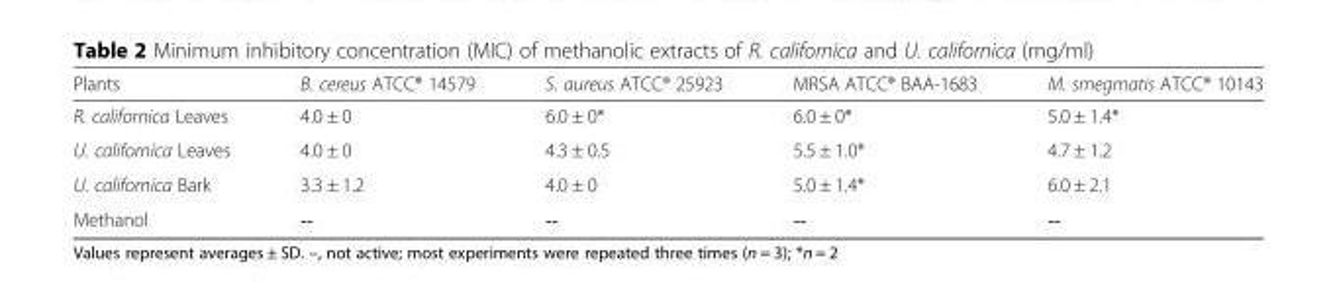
<table><thead><tr><td>Plants</td><td>B. cereus ATCC® 14579</td><td>S. aureus ATCC® 25923</td><td>MRSA ATCC® BAA-1683</td><td>M. smegmatis ATCC® 10143</td></tr></thead><tbody><tr><td>R. californica Leaves</td><td>4.0 ± 0</td><td>6.0 ± 0*</td><td>6.0 ± 0*</td><td>5.0 ± 1.4*</td></tr><tr><td>U. californica Leaves</td><td>4.0 ± 0</td><td>4.3 ± 0.5</td><td>5.5 ± 1.0*</td><td>4.7 ± 1.2</td></tr><tr><td>U. californica Bark</td><td>3.3 ± 1.2</td><td>4.0 ± 0</td><td>5.0 ± 1.4*</td><td>6.0 ± 2.1</td></tr><tr><td>Methanol</td><td>--</td><td>--</td><td>--</td><td>--</td></tr></tbody></table>